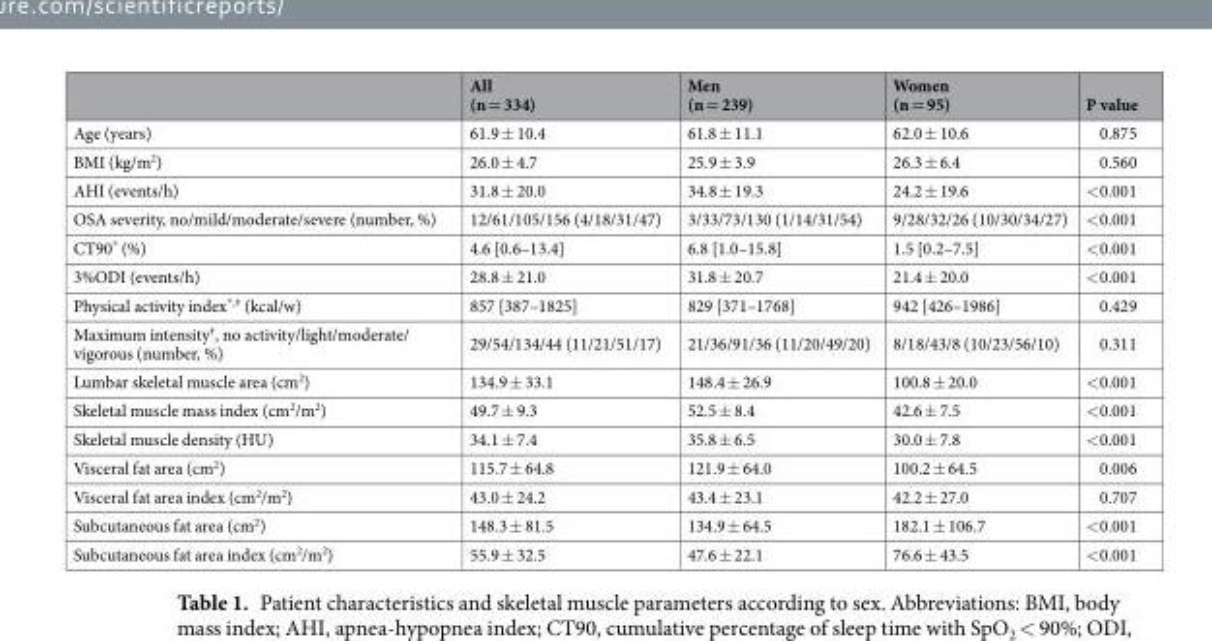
<table><thead><tr><td></td><td>All (n = 334)</td><td>Men (n = 239)</td><td>Women (n = 95)</td><td>P value</td></tr></thead><tbody><tr><td>Age (years)</td><td>61.9 ± 10.4</td><td>61.8 ± 11.1</td><td>62.0 ± 10.6</td><td>0.875</td></tr><tr><td>BMI (kg/m<sup>2</sup>)</td><td>26.0 ± 4.7</td><td>25.9 ± 3.9</td><td>26.3 ± 6.4</td><td>0.560</td></tr><tr><td>AHI (events/h)</td><td>31.8 ± 20.0</td><td>34.8 ± 19.3</td><td>24.2 ± 19.6</td><td>&lt;0.001</td></tr><tr><td>OSA severity, no/mild/moderate/severe (number, %)</td><td>12/61/105/156 (4/18/31/47)</td><td>3/33/73/130 (1/14/31/54)</td><td>9/28/32/26 (10/30/34/27)</td><td>&lt;0.001</td></tr><tr><td>CT90* (%)</td><td>4.6 [0.6–13.4]</td><td>6.8 [1.0–15.8]</td><td>1.5 [0.2–7.5]</td><td>&lt;0.001</td></tr><tr><td>3%ODI (events/h)</td><td>28.8 ± 21.0</td><td>31.8 ± 20.7</td><td>21.4 ± 20.0</td><td>&lt;0.001</td></tr><tr><td>Physical activity index<sup>*,†</sup> (kcal/w)</td><td>857 [387–1825]</td><td>829 [371–1768]</td><td>942 [426–1986]</td><td>0.429</td></tr><tr><td>Maximum intensity<sup>†</sup>, no activity/light/moderate/ vigorous (number, %)</td><td>29/54/134/44 (11/21/51/17)</td><td>21/36/91/36 (11/20/49/20)</td><td>8/18/43/8 (10/23/56/10)</td><td>0.311</td></tr><tr><td>Lumbar skeletal muscle area (cm<sup>2</sup>)</td><td>134.9 ± 33.1</td><td>148.4 ± 26.9</td><td>100.8 ± 20.0</td><td>&lt;0.001</td></tr><tr><td>Skeletal muscle mass index (cm<sup>2</sup>/m<sup>2</sup>)</td><td>49.7 ± 9.3</td><td>52.5 ± 8.4</td><td>42.6 ± 7.5</td><td>&lt;0.001</td></tr><tr><td>Skeletal muscle density (HU)</td><td>34.1 ± 7.4</td><td>35.8 ± 6.5</td><td>30.0 ± 7.8</td><td>&lt;0.001</td></tr><tr><td>Visceral fat area (cm<sup>2</sup>)</td><td>115.7 ± 64.8</td><td>121.9 ± 64.0</td><td>100.2 ± 64.5</td><td>0.006</td></tr><tr><td>Visceral fat area index (cm<sup>2</sup>/m<sup>2</sup>)</td><td>43.0 ± 24.2</td><td>43.4 ± 23.1</td><td>42.2 ± 27.0</td><td>0.707</td></tr><tr><td>Subcutaneous fat area (cm<sup>2</sup>)</td><td>148.3 ± 81.5</td><td>134.9 ± 64.5</td><td>182.1 ± 106.7</td><td>&lt;0.001</td></tr><tr><td>Subcutaneous fat area index (cm<sup>2</sup>/m<sup>2</sup>)</td><td>55.9 ± 32.5</td><td>47.6 ± 22.1</td><td>76.6 ± 43.5</td><td>&lt;0.001</td></tr></tbody></table>